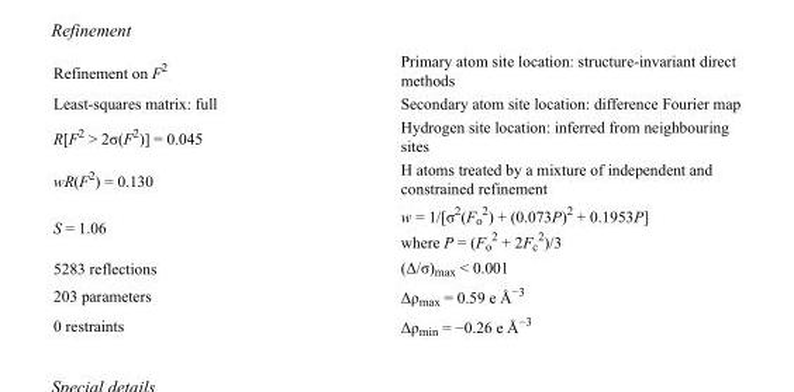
<table><tbody><tr><td>Refinement on F<sup>2</sup></td><td>Primary atom site location: structure-invariant direct methods</td></tr><tr><td>Least-squares matrix: full</td><td>Secondary atom site location: difference Fourier map</td></tr><tr><td>R[F<sup>2</sup> &gt; 2σ(F<sup>2</sup>)] = 0.045</td><td>Hydrogen site location: inferred from neighbouring sites</td></tr><tr><td>wR(F<sup>2</sup>) = 0.130</td><td>H atoms treated by a mixture of independent and constrained refinement</td></tr><tr><td>S = 1.06</td><td>w = 1/[σ<sup>2</sup>(F<sub>o</sub> <sup>2</sup>) + (0.073P)<sup>2</sup> + 0.1953P] where P = (F<sub>o</sub> <sup>2</sup> + 2F<sub>c</sub> <sup>2</sup>)/3</td></tr><tr><td>5283 reflections</td><td>(Δ/σ)<sub>max</sub> &lt; 0.001</td></tr><tr><td>203 parameters</td><td>Δρ<sub>max</sub> = 0.59 e Å<sup>−3</sup></td></tr><tr><td>0 restraints</td><td>Δρ<sub>min</sub> = −0.26 e Å<sup>−3</sup></td></tr></tbody></table>